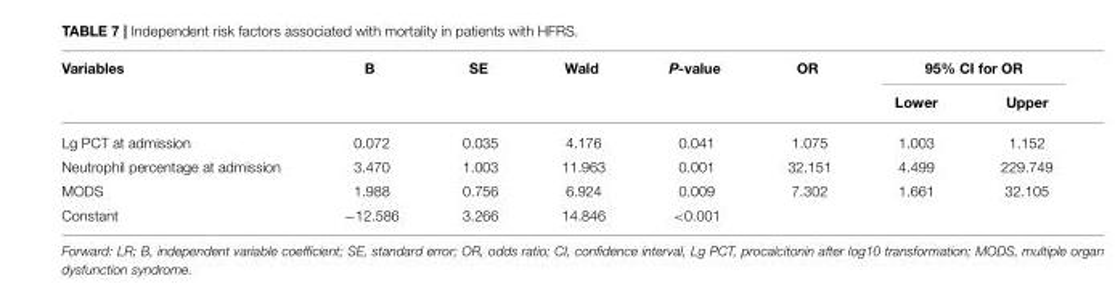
<table><thead><tr><td rowspan="2">Variables</td><td rowspan="2">B</td><td rowspan="2">SE</td><td rowspan="2">Wald</td><td rowspan="2">P-value</td><td rowspan="2">OR</td><td colspan="2">95% CI for OR</td></tr><tr><td>Lower</td><td>Upper</td></tr></thead><tbody><tr><td>Lg PCT at admission</td><td>0.072</td><td>0.035</td><td>4.176</td><td>0.041</td><td>1.075</td><td>1.003</td><td>1.152</td></tr><tr><td>Neutrophil percentage at admission</td><td>3.470</td><td>1.003</td><td>11.963</td><td>0.001</td><td>32.151</td><td>4.499</td><td>229.749</td></tr><tr><td>MODS</td><td>1.988</td><td>0.756</td><td>6.924</td><td>0.009</td><td>7.302</td><td>1.661</td><td>32.105</td></tr><tr><td>Constant</td><td>−12.586</td><td>3.266</td><td>14.846</td><td>&lt;0.001</td><td></td><td></td><td></td></tr></tbody></table>